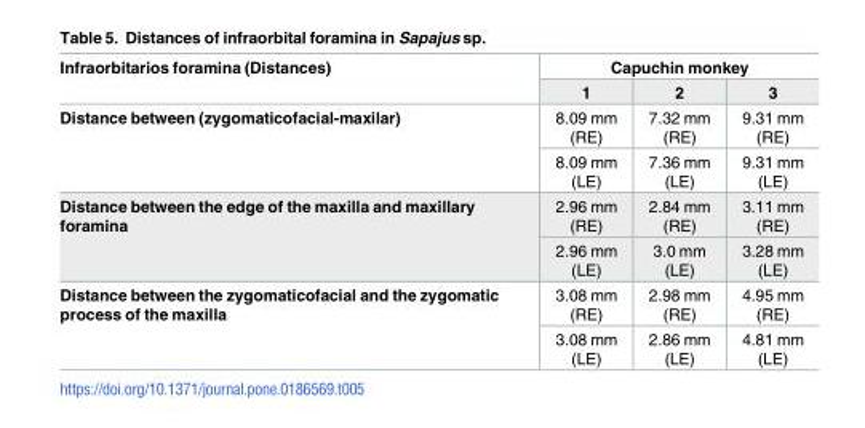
<table><thead><tr><td rowspan="2">Infraorbitarios foramina (Distances)</td><td colspan="3">Capuchin monkey</td></tr><tr><td>1</td><td>2</td><td>3</td></tr></thead><tbody><tr><td rowspan="2">Distance between (zygomaticofacial-maxilar)</td><td>8.09 mm (RE)</td><td>7.32 mm (RE)</td><td>9.31 mm (RE)</td></tr><tr><td>8.09 mm (LE)</td><td>7.36 mm (LE)</td><td>9.31 mm (LE)</td></tr><tr><td rowspan="2">Distance between the edge of the maxilla and maxillary foramina</td><td>2.96 mm (RE)</td><td>2.84 mm (RE)</td><td>3.11 mm (RE)</td></tr><tr><td>2.96 mm (LE)</td><td>3.0 mm (LE)</td><td>3.28 mm (LE)</td></tr><tr><td rowspan="2">Distance between the zygomaticofacial and the zygomatic process of the maxilla</td><td>3.08 mm (RE)</td><td>2.98 mm (RE)</td><td>4.95 mm (RE)</td></tr><tr><td>3.08 mm (LE)</td><td>2.86 mm (LE)</td><td>4.81 mm (LE)</td></tr></tbody></table>